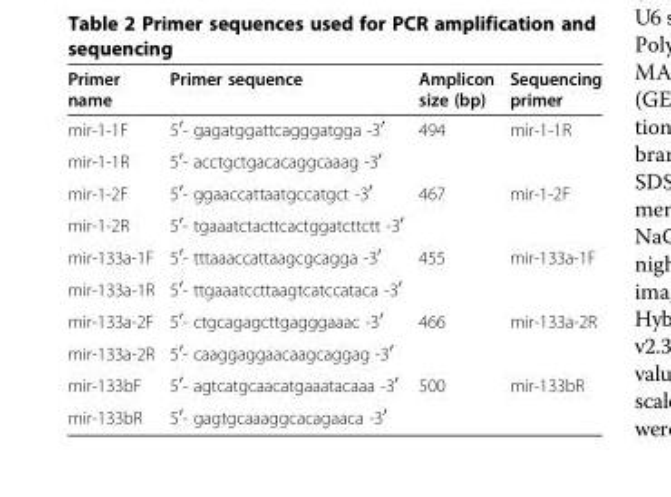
<table><thead><tr><td>Primer name</td><td>Primer sequence</td><td>Amplicon size (bp)</td><td>Sequencing primer</td></tr></thead><tbody><tr><td>mir-1-1F</td><td>5<sup>′</sup>- gagatggattcagggatgga -3<sup>′</sup></td><td>494</td><td>mir-1-1R</td></tr><tr><td>mir-1-1R</td><td>5<sup>′</sup>- acctgctgacacaggcaaag -3<sup>′</sup></td><td></td><td></td></tr><tr><td>mir-1-2F</td><td>5<sup>′</sup>- ggaaccattaatgccatgct -3<sup>′</sup></td><td>467</td><td>mir-1-2F</td></tr><tr><td>mir-1-2R</td><td>5<sup>′</sup>- tgaaatctacttcactggatcttctt -3<sup>′</sup></td><td></td><td></td></tr><tr><td>mir-133a-1F</td><td>5<sup>′</sup>- tttaaaccattaagcgcagga -3<sup>′</sup></td><td>455</td><td>mir-133a-1F</td></tr><tr><td>mir-133a-1R</td><td>5<sup>′</sup>- ttgaaatccttaagtcatccataca -3<sup>′</sup></td><td></td><td></td></tr><tr><td>mir-133a-2F</td><td>5<sup>′</sup>- ctgcagagcttgagggaaac -3<sup>′</sup></td><td>466</td><td>mir-133a-2R</td></tr><tr><td>mir-133a-2R</td><td>5<sup>′</sup>- caaggaggaacaagcaggag -3<sup>′</sup></td><td></td><td></td></tr><tr><td>mir-133bF</td><td>5<sup>′</sup>- agtcatgcaacatgaaatacaaa -3<sup>′</sup></td><td>500</td><td>mir-133bR</td></tr><tr><td>mir-133bR</td><td>5<sup>′</sup>- gagtgcaaaggcacagaaca -3<sup>′</sup></td><td></td><td></td></tr></tbody></table>